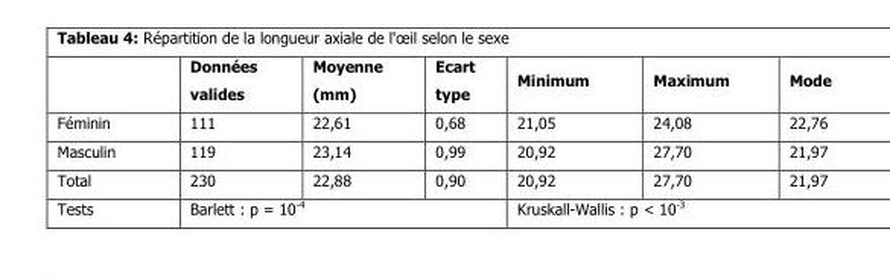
<table><thead><tr><td></td><td>Données valides</td><td>Moyenne (mm)</td><td>Ecart type</td><td>Minimum</td><td>Maximum</td><td>Mode</td></tr></thead><tbody><tr><td>Féminin</td><td>111</td><td>22,61</td><td>0,68</td><td>21,05</td><td>24,08</td><td>22,76</td></tr><tr><td>Masculin</td><td>119</td><td>23,14</td><td>0,99</td><td>20,92</td><td>27,70</td><td>21,97</td></tr><tr><td>Total</td><td>230</td><td>22,88</td><td>0,90</td><td>20,92</td><td>27,70</td><td>21,97</td></tr><tr><td>Tests</td><td colspan="3">Barlett : p = 10<sup>-4</sup></td><td colspan="3">Kruskall-Wallis : p &lt; 10<sup>-3</sup></td></tr></tbody></table>